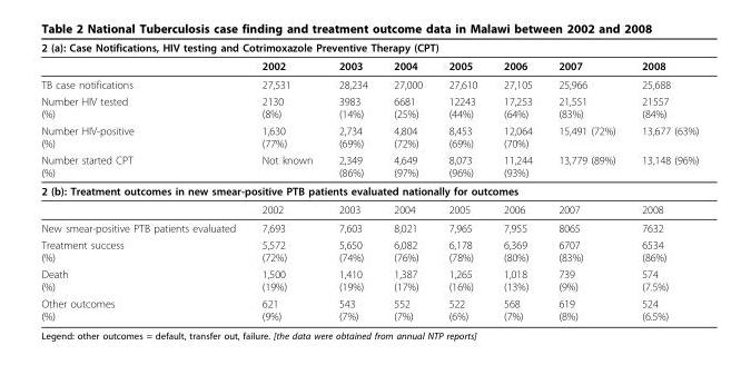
<table><thead><tr><td colspan="8">2 (a): Case Notifications, HIV testing and Cotrimoxazole Preventive Therapy (CPT)</td></tr><tr><td></td><td>2002</td><td>2003</td><td>2004</td><td>2005</td><td>2006</td><td>2007</td><td>2008</td></tr></thead><tbody><tr><td>TB case notifications</td><td>27,531</td><td>28,234</td><td>27,000</td><td>27,610</td><td>27,105</td><td>25,966</td><td>25,688</td></tr><tr><td>Number HIV tested (%)</td><td>2130 (8%)</td><td>3983 (14%)</td><td>6681 (25%)</td><td>12243 (44%)</td><td>17,253 (64%)</td><td>21,551 (83%)</td><td>21557 (84%)</td></tr><tr><td>Number HIV-positive (%)</td><td>1,630 (77%)</td><td>2,734 (69%)</td><td>4,804 (72%)</td><td>8,453 (69%)</td><td>12,064 (70%)</td><td>15,491 (72%)</td><td>13,677 (63%)</td></tr><tr><td>Number started CPT (%)</td><td>Not known</td><td>2,349 (86%)</td><td>4,649 (97%)</td><td>8,073 (96%)</td><td>11,244 (93%)</td><td>13,779 (89%)</td><td>13,148 (96%)</td></tr><tr><td colspan="8">2 (b): Treatment outcomes in new smear-positive PTB patients evaluated nationally for outcomes</td></tr><tr><td></td><td>2002</td><td>2003</td><td>2004</td><td>2005</td><td>2006</td><td>2007</td><td>2008</td></tr><tr><td>New smear-positive PTB patients evaluated</td><td>7,693</td><td>7,603</td><td>8,021</td><td>7,965</td><td>7,955</td><td>8065</td><td>7632</td></tr><tr><td>Treatment success (%)</td><td>5,572 (72%)</td><td>5,650 (74%)</td><td>6,082 (76%)</td><td>6,178 (78%)</td><td>6,369 (80%)</td><td>6707 (83%)</td><td>6534 (86%)</td></tr><tr><td>Death (%)</td><td>1,500 (19%)</td><td>1,410 (19%)</td><td>1,387 (17%)</td><td>1,265 (16%)</td><td>1,018 (13%)</td><td>739 (9%)</td><td>574 (7.5%)</td></tr><tr><td>Other outcomes (%)</td><td>621 (9%)</td><td>543 (7%)</td><td>552 (7%)</td><td>522 (6%)</td><td>568 (7%)</td><td>619 (8%)</td><td>524 (6.5%)</td></tr></tbody></table>